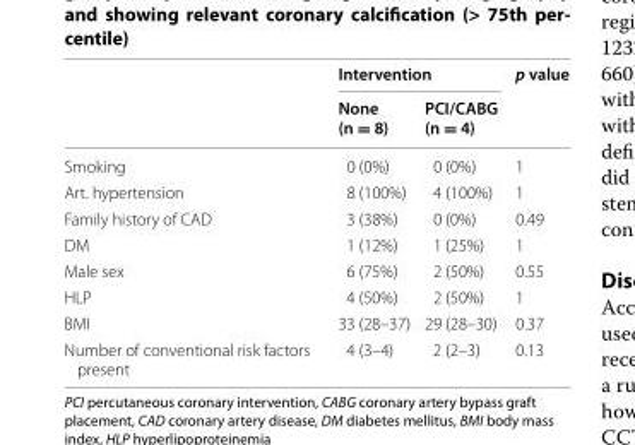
<table><thead><tr><td rowspan="2"></td><td colspan="2">Intervention</td><td rowspan="2">p value</td></tr><tr><td>None (n = 8)</td><td>PCI/CABG (n = 4)</td></tr></thead><tbody><tr><td>Smoking</td><td>0 (0%)</td><td>0 (0%)</td><td>1</td></tr><tr><td>Art. hypertension</td><td>8 (100%)</td><td>4 (100%)</td><td>1</td></tr><tr><td>Family history of CAD</td><td>3 (38%)</td><td>0 (0%)</td><td>0.49</td></tr><tr><td>DM</td><td>1 (12%)</td><td>1 (25%)</td><td>1</td></tr><tr><td>Male sex</td><td>6 (75%)</td><td>2 (50%)</td><td>0.55</td></tr><tr><td>HLP</td><td>4 (50%)</td><td>2 (50%)</td><td>1</td></tr><tr><td>BMI</td><td>33 (28–37)</td><td>29 (28–30)</td><td>0.37</td></tr><tr><td>Number of conventional risk factors present</td><td>4 (3–4)</td><td>2 (2–3)</td><td>0.13</td></tr></tbody></table>